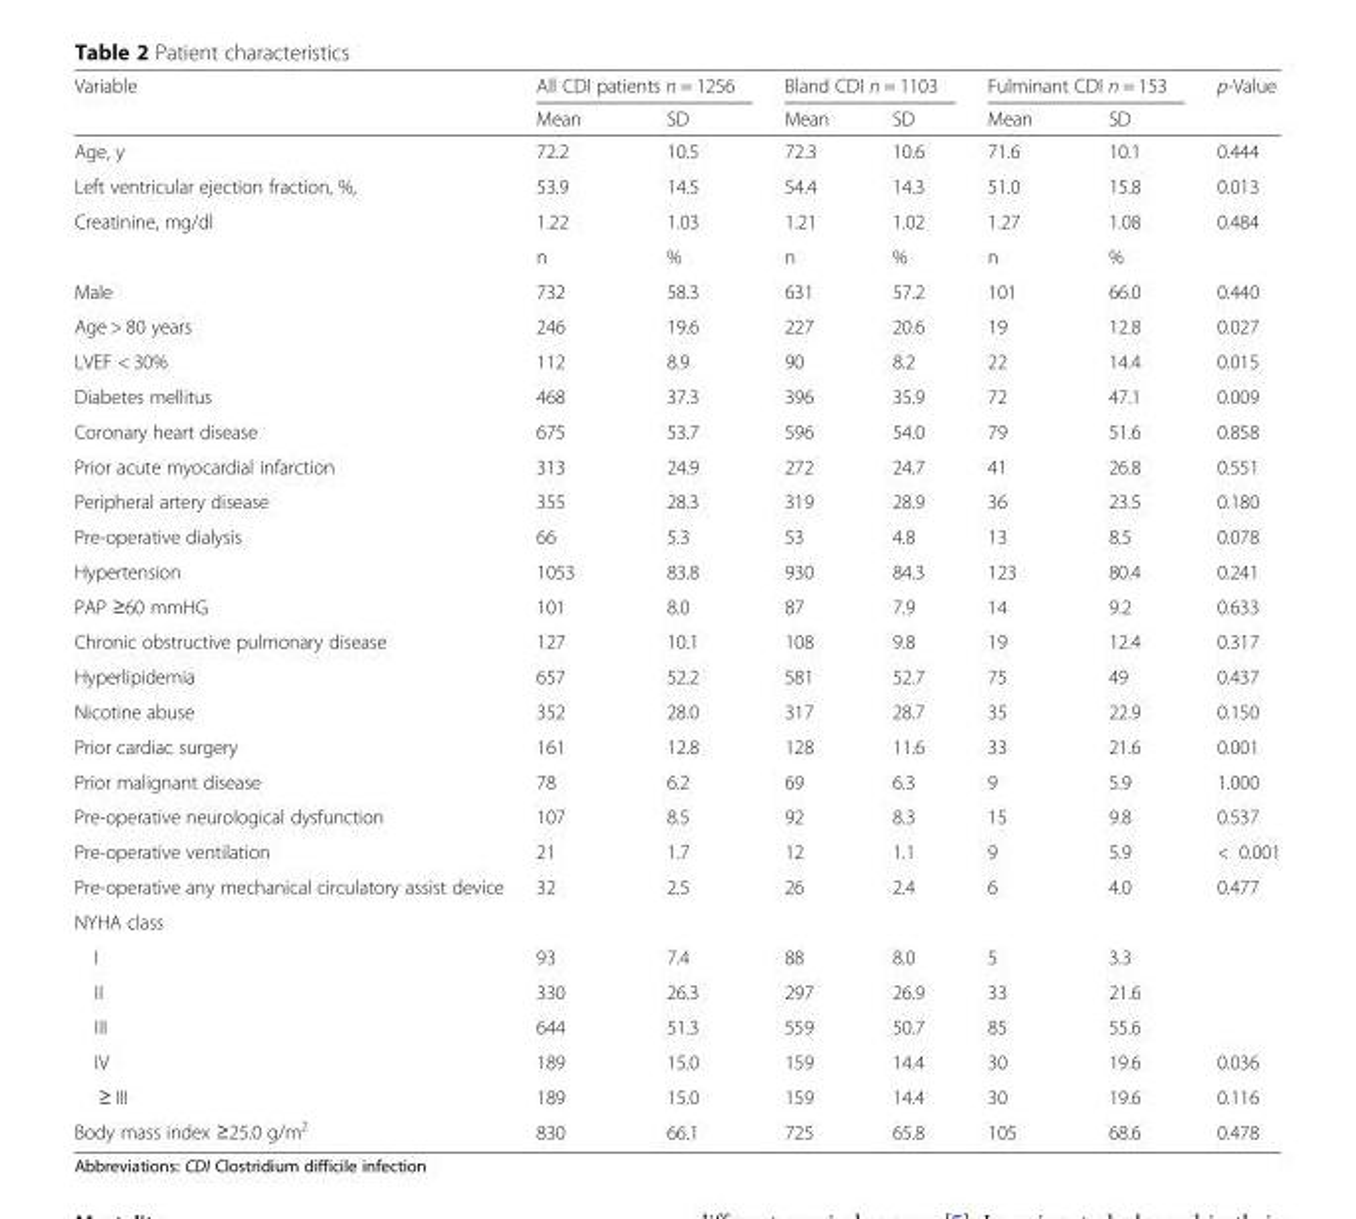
<table><thead><tr><td rowspan="2">Variable</td><td colspan="2">All CDI patients n = 1256</td><td colspan="2">Bland CDI n = 1103</td><td colspan="2">Fulminant CDI n = 153</td><td rowspan="2">p-Value</td></tr><tr><td>Mean</td><td>SD</td><td>Mean</td><td>SD</td><td>Mean</td><td>SD</td></tr></thead><tbody><tr><td>Age, y</td><td>72.2</td><td>10.5</td><td>72.3</td><td>10.6</td><td>71.6</td><td>10.1</td><td>0.444</td></tr><tr><td>Left ventricular ejection fraction, %,</td><td>53.9</td><td>14.5</td><td>54.4</td><td>14.3</td><td>51.0</td><td>15.8</td><td>0.013</td></tr><tr><td rowspan="2">Creatinine, mg/dl</td><td>1.22</td><td>1.03</td><td>1.21</td><td>1.02</td><td>1.27</td><td>1.08</td><td>0.484</td></tr><tr><td>n</td><td>%</td><td>n</td><td>%</td><td>n</td><td>%</td><td></td></tr><tr><td>Male</td><td>732</td><td>58.3</td><td>631</td><td>57.2</td><td>101</td><td>66.0</td><td>0.440</td></tr><tr><td>Age &gt; 80 years</td><td>246</td><td>19.6</td><td>227</td><td>20.6</td><td>19</td><td>12.8</td><td>0.027</td></tr><tr><td>LVEF &lt; 30%</td><td>112</td><td>8.9</td><td>90</td><td>8.2</td><td>22</td><td>14.4</td><td>0.015</td></tr><tr><td>Diabetes mellitus</td><td>468</td><td>37.3</td><td>396</td><td>35.9</td><td>72</td><td>47.1</td><td>0.009</td></tr><tr><td>Coronary heart disease</td><td>675</td><td>53.7</td><td>596</td><td>54.0</td><td>79</td><td>51.6</td><td>0.858</td></tr><tr><td>Prior acute myocardial infarction</td><td>313</td><td>24.9</td><td>272</td><td>24.7</td><td>41</td><td>26.8</td><td>0.551</td></tr><tr><td>Peripheral artery disease</td><td>355</td><td>28.3</td><td>319</td><td>28.9</td><td>36</td><td>23.5</td><td>0.180</td></tr><tr><td>Pre-operative dialysis</td><td>66</td><td>5.3</td><td>53</td><td>4.8</td><td>13</td><td>8.5</td><td>0.078</td></tr><tr><td>Hypertension</td><td>1053</td><td>83.8</td><td>930</td><td>84.3</td><td>123</td><td>80.4</td><td>0.241</td></tr><tr><td>PAP ≥60 mmHG</td><td>101</td><td>8.0</td><td>87</td><td>7.9</td><td>14</td><td>9.2</td><td>0.633</td></tr><tr><td>Chronic obstructive pulmonary disease</td><td>127</td><td>10.1</td><td>108</td><td>9.8</td><td>19</td><td>12.4</td><td>0.317</td></tr><tr><td>Hyperlipidemia</td><td>657</td><td>52.2</td><td>581</td><td>52.7</td><td>75</td><td>49</td><td>0.437</td></tr><tr><td>Nicotine abuse</td><td>352</td><td>28.0</td><td>317</td><td>28.7</td><td>35</td><td>22.9</td><td>0.150</td></tr><tr><td>Prior cardiac surgery</td><td>161</td><td>12.8</td><td>128</td><td>11.6</td><td>33</td><td>21.6</td><td>0.001</td></tr><tr><td>Prior malignant disease</td><td>78</td><td>6.2</td><td>69</td><td>6.3</td><td>9</td><td>5.9</td><td>1.000</td></tr><tr><td>Pre-operative neurological dysfunction</td><td>107</td><td>8.5</td><td>92</td><td>8.3</td><td>15</td><td>9.8</td><td>0.537</td></tr><tr><td>Pre-operative ventilation</td><td>21</td><td>1.7</td><td>12</td><td>1.1</td><td>9</td><td>5.9</td><td>&lt; 0.001</td></tr><tr><td>Pre-operative any mechanical circulatory assist device</td><td>32</td><td>2.5</td><td>26</td><td>2.4</td><td>6</td><td>4.0</td><td>0.477</td></tr><tr><td colspan="8">NYHA class</td></tr><tr><td>I</td><td>93</td><td>7.4</td><td>88</td><td>8.0</td><td>5</td><td>3.3</td><td></td></tr><tr><td>II</td><td>330</td><td>26.3</td><td>297</td><td>26.9</td><td>33</td><td>21.6</td><td></td></tr><tr><td>III</td><td>644</td><td>51.3</td><td>559</td><td>50.7</td><td>85</td><td>55.6</td><td></td></tr><tr><td>IV</td><td>189</td><td>15.0</td><td>159</td><td>14.4</td><td>30</td><td>19.6</td><td>0.036</td></tr><tr><td>≥ III</td><td>189</td><td>15.0</td><td>159</td><td>14.4</td><td>30</td><td>19.6</td><td>0.116</td></tr><tr><td>Body mass index ≥25.0 g/m<sup>2</sup></td><td>830</td><td>66.1</td><td>725</td><td>65.8</td><td>105</td><td>68.6</td><td>0.478</td></tr></tbody></table>